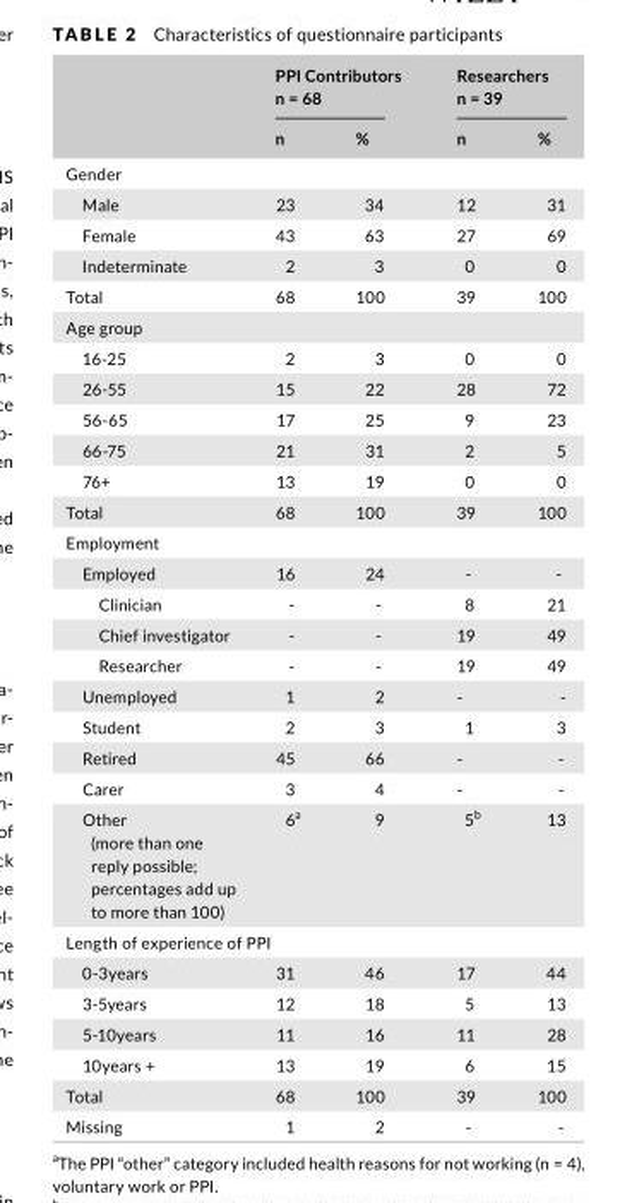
<table><thead><tr><td rowspan="2"></td><td colspan="2">PPI Contributors n = 68</td><td colspan="2">Researchers n = 39</td></tr><tr><td>n</td><td>%</td><td>n</td><td>%</td></tr></thead><tbody><tr><td colspan="5">Gender</td></tr><tr><td>Male</td><td>23</td><td>34</td><td>12</td><td>31</td></tr><tr><td>Female</td><td>43</td><td>63</td><td>27</td><td>69</td></tr><tr><td>Indeterminate</td><td>2</td><td>3</td><td>0</td><td>0</td></tr><tr><td>Total</td><td>68</td><td>100</td><td>39</td><td>100</td></tr><tr><td colspan="5">Age group</td></tr><tr><td>16- 25</td><td>2</td><td>3</td><td>0</td><td>0</td></tr><tr><td>26- 55</td><td>15</td><td>22</td><td>28</td><td>72</td></tr><tr><td>56- 65</td><td>17</td><td>25</td><td>9</td><td>23</td></tr><tr><td>66- 75</td><td>21</td><td>31</td><td>2</td><td>5</td></tr><tr><td>76+</td><td>13</td><td>19</td><td>0</td><td>0</td></tr><tr><td>Total</td><td>68</td><td>100</td><td>39</td><td>100</td></tr><tr><td colspan="5">Employment</td></tr><tr><td>Employed</td><td>16</td><td>24</td><td>-</td><td>-</td></tr><tr><td>Clinician</td><td>-</td><td>-</td><td>8</td><td>21</td></tr><tr><td>Chief investigator</td><td>-</td><td>-</td><td>19</td><td>49</td></tr><tr><td>Researcher</td><td>-</td><td>-</td><td>19</td><td>49</td></tr><tr><td>Unemployed</td><td>1</td><td>2</td><td>-</td><td>-</td></tr><tr><td>Student</td><td>2</td><td>3</td><td>1</td><td>3</td></tr><tr><td>Retired</td><td>45</td><td>66</td><td>-</td><td>-</td></tr><tr><td>Carer</td><td>3</td><td>4</td><td>-</td><td>-</td></tr><tr><td>Other (more than one reply possible; percentages add up to more than 100)</td><td>6<sup>a</sup></td><td>9</td><td>5<sup>b</sup></td><td>13</td></tr><tr><td colspan="5">Length of experience of PPI</td></tr><tr><td>0- 3years</td><td>31</td><td>46</td><td>17</td><td>44</td></tr><tr><td>3- 5years</td><td>12</td><td>18</td><td>5</td><td>13</td></tr><tr><td>5- 10years</td><td>11</td><td>16</td><td>11</td><td>28</td></tr><tr><td>10years +</td><td>13</td><td>19</td><td>6</td><td>15</td></tr><tr><td>Total</td><td>68</td><td>100</td><td>39</td><td>100</td></tr><tr><td>Missing</td><td>1</td><td>2</td><td>-</td><td>-</td></tr></tbody></table>